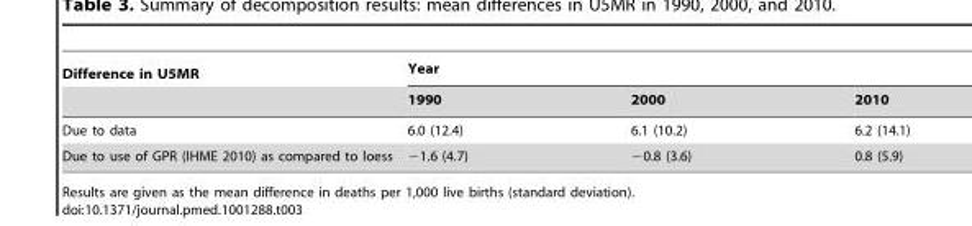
<table><thead><tr><td rowspan="2">Difference in U5MR</td><td colspan="3">Year</td></tr><tr><td>1990</td><td>2000</td><td>2010</td></tr></thead><tbody><tr><td>Due to data</td><td>6.0 (12.4)</td><td>6.1 (10.2)</td><td>6.2 (14.1)</td></tr><tr><td>Due to use of GPR (IHME 2010) as compared to loess</td><td>−1.6 (4.7)</td><td>−0.8 (3.6)</td><td>0.8 (5.9)</td></tr></tbody></table>